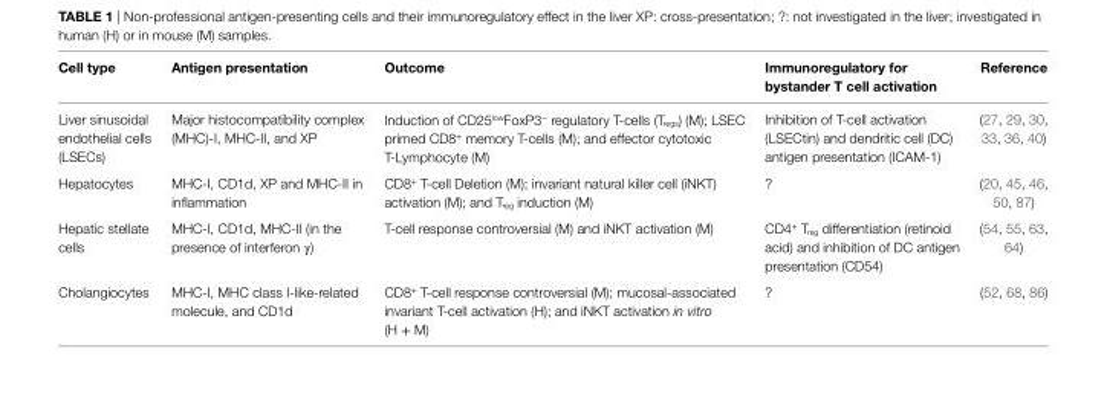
<table><thead><tr><td>Cell type</td><td>Antigen presentation</td><td>Outcome</td><td>immunoregulatory for bystander T cell activation</td><td>Reference</td></tr></thead><tbody><tr><td>Liver sinusoidal endothelial cells (LSECs)</td><td>Major histocompatibility complex (MHC)-I, MHC-II, and XP</td><td>Induction of CD25<sup>low</sup>FoxP3<sup>−</sup> regulatory T-cells (T<sub>regs</sub>) (M); LSEC primed CD8<sup>+</sup> memory T-cells (M); and effector cytotoxic T-Lymphocyte (M)</td><td>Inhibition of T-cell activation (LSECtin) and dendritic cell (DC) antigen presentation (ICAM-1)</td><td>(27, 29, 30, 33, 36, 40)</td></tr><tr><td>Hepatocytes</td><td>MHC-I, CD1d, XP and MHC-II in inflammation</td><td>CD8<sup>+</sup> T-cell Deletion (M); invariant natural killer cell (iNKT) activation (M); and T<sub>reg</sub> induction (M)</td><td>?</td><td>(20, 45, 46, 50, 87)</td></tr><tr><td>Hepatic stellate cells</td><td>MHC-I, CD1d, MHC-II (in the presence of interferon γ)</td><td>T-cell response controversial (M) and iNKT activation (M)</td><td>CD4<sup>+</sup> T<sub>reg</sub> differentiation (retinoid acid) and inhibition of DC antigen presentation (CD54)</td><td>(54, 55, 63, 64)</td></tr><tr><td>Cholangiocytes</td><td>MHC-I, MHC class I-like-related molecule, and CD1d</td><td>CD8<sup>+</sup> T-cell response controversial (M); mucosal-associated invariant T-cell activation (H); and iNKT activation in vitro (H + M)</td><td>?</td><td>(52, 68, 86)</td></tr></tbody></table>